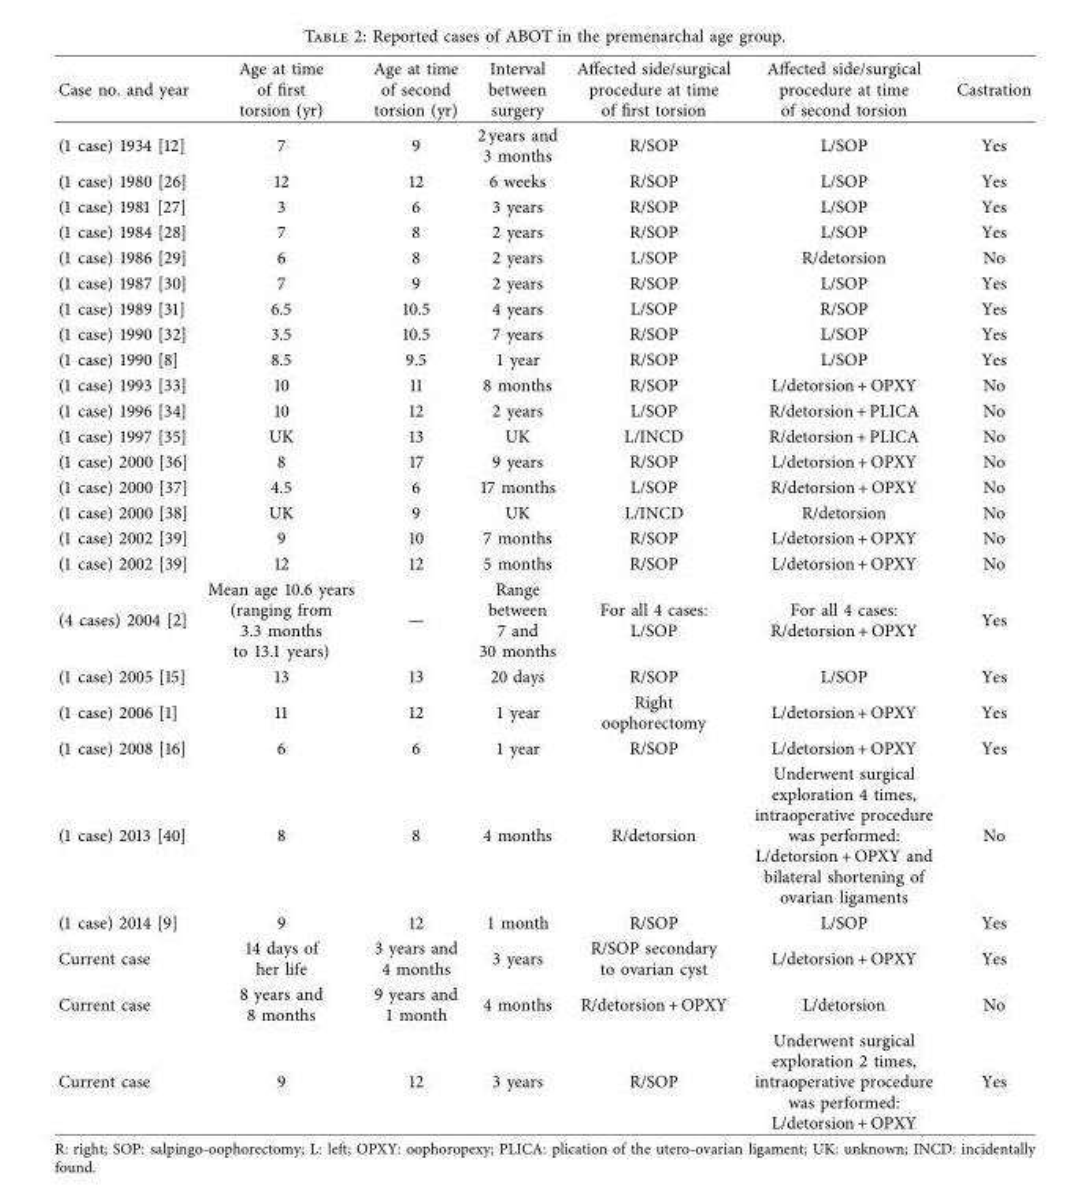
<table><thead><tr><td>Case no. and year</td><td>Age at time of frst torsion (yr)</td><td>Age at time of second torsion (yr)</td><td>Interval between surgery</td><td>Afected side/surgical procedure at time of frst torsion</td><td>Afected side/surgical procedure at time of second torsion</td><td>Castration</td></tr></thead><tbody><tr><td>(1 case) 1934 [12]</td><td>7</td><td>9</td><td>2 years and 3 months</td><td>R/SOP</td><td>L/SOP</td><td>Yes</td></tr><tr><td>(1 case) 1980 [26]</td><td>12</td><td>12</td><td>6 weeks</td><td>R/SOP</td><td>L/SOP</td><td>Yes</td></tr><tr><td>(1 case) 1981 [27]</td><td>3</td><td>6</td><td>3 years</td><td>R/SOP</td><td>L/SOP</td><td>Yes</td></tr><tr><td>(1 case) 1984 [28]</td><td>7</td><td>8</td><td>2 years</td><td>R/SOP</td><td>L/SOP</td><td>Yes</td></tr><tr><td>(1 case) 1986 [29]</td><td>6</td><td>8</td><td>2 years</td><td>L/SOP</td><td>R/detorsion</td><td>No</td></tr><tr><td>(1 case) 1987 [30]</td><td>7</td><td>9</td><td>2 years</td><td>R/SOP</td><td>L/SOP</td><td>Yes</td></tr><tr><td>(1 case) 1989 [31]</td><td>6.5</td><td>10.5</td><td>4 years</td><td>L/SOP</td><td>R/SOP</td><td>Yes</td></tr><tr><td>(1 case) 1990 [32]</td><td>3.5</td><td>10.5</td><td>7 years</td><td>R/SOP</td><td>L/SOP</td><td>Yes</td></tr><tr><td>(1 case) 1990 [8]</td><td>8.5</td><td>9.5</td><td>1 year</td><td>R/SOP</td><td>L/SOP</td><td>Yes</td></tr><tr><td>(1 case) 1993 [33]</td><td>10</td><td>11</td><td>8 months</td><td>R/SOP</td><td>L/detorsion + OPXY</td><td>No</td></tr><tr><td>(1 case) 1996 [34]</td><td>10</td><td>12</td><td>2 years</td><td>L/SOP</td><td>R/detorsion + PLICA</td><td>No</td></tr><tr><td>(1 case) 1997 [35]</td><td>UK</td><td>13</td><td>UK</td><td>L/INCD</td><td>R/detorsion + PLICA</td><td>No</td></tr><tr><td>(1 case) 2000 [36]</td><td>8</td><td>17</td><td>9 years</td><td>R/SOP</td><td>L/detorsion + OPXY</td><td>No</td></tr><tr><td>(1 case) 2000 [37]</td><td>4.5</td><td>6</td><td>17 months</td><td>L/SOP</td><td>R/detorsion + OPXY</td><td>No</td></tr><tr><td>(1 case) 2000 [38]</td><td>UK</td><td>9</td><td>UK</td><td>L/INCD</td><td>R/detorsion</td><td>No</td></tr><tr><td>(1 case) 2002 [39]</td><td>9</td><td>10</td><td>7 months</td><td>R/SOP</td><td>L/detorsion + OPXY</td><td>No</td></tr><tr><td>(1 case) 2002 [39]</td><td>12</td><td>12</td><td>5 months</td><td>R/SOP</td><td>L/detorsion + OPXY</td><td>No</td></tr><tr><td>(4 cases) 2004 [2]</td><td>Mean age 10.6 years (ranging from 3.3 months to 13.1 years)</td><td>—</td><td>Range between 7 and 30 months</td><td>For all 4 cases: L/SOP</td><td>For all 4 cases: R/detorsion + OPXY</td><td>Yes</td></tr><tr><td>(1 case) 2005 [15]</td><td>13</td><td>13</td><td>20 days</td><td>R/SOP</td><td>L/SOP</td><td>Yes</td></tr><tr><td>(1 case) 2006 [1]</td><td>11</td><td>12</td><td>1 year</td><td>Right oophorectomy</td><td>L/detorsion + OPXY</td><td>Yes</td></tr><tr><td>(1 case) 2008 [16]</td><td>6</td><td>6</td><td>1 year</td><td>R/SOP</td><td>L/detorsion + OPXY</td><td>Yes</td></tr><tr><td>(1 case) 2013 [40]</td><td>8</td><td>8</td><td>4 months</td><td>R/detorsion</td><td>Underwent surgical exploration 4 times, intraoperative procedure was performed: L/detorsion + OPXY and bilateral shortening of ovarian ligaments</td><td>No</td></tr><tr><td>(1 case) 2014 [9]</td><td>9</td><td>12</td><td>1 month</td><td>R/SOP</td><td>L/SOP</td><td>Yes</td></tr><tr><td>Current case</td><td>14 days of her life</td><td>3 years and 4 months</td><td>3 years</td><td>R/SOP secondary to ovarian cyst</td><td>L/detorsion + OPXY</td><td>Yes</td></tr><tr><td>Current case</td><td>8 years and 8 months</td><td>9 years and 1 month</td><td>4 months</td><td>R/detorsion + OPXY</td><td>L/detorsion</td><td>No</td></tr><tr><td>Current case</td><td>9</td><td>12</td><td>3 years</td><td>R/SOP</td><td>Underwent surgical exploration 2 times, intraoperative procedure was performed: L/detorsion + OPXY</td><td>Yes</td></tr></tbody></table>